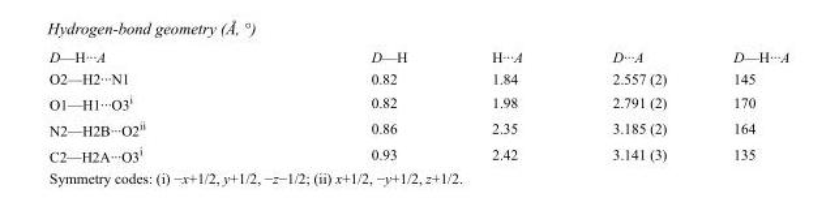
<table><tbody><tr><td>D—H···A</td><td>D—H</td><td>H···A</td><td>D···A</td><td>D—H···A</td></tr><tr><td>O2—H2···N1</td><td>0.82</td><td>1.84</td><td>2.557 (2)</td><td>145</td></tr><tr><td>O1—H1···O3<sup>i</sup></td><td>0.82</td><td>1.98</td><td>2.791 (2)</td><td>170</td></tr><tr><td>N2—H2B···O2<sup>ii</sup></td><td>0.86</td><td>2.35</td><td>3.185 (2)</td><td>164</td></tr><tr><td>C2—H2A···O3<sup>i</sup></td><td>0.93</td><td>2.42</td><td>3.141 (3)</td><td>135</td></tr></tbody></table>